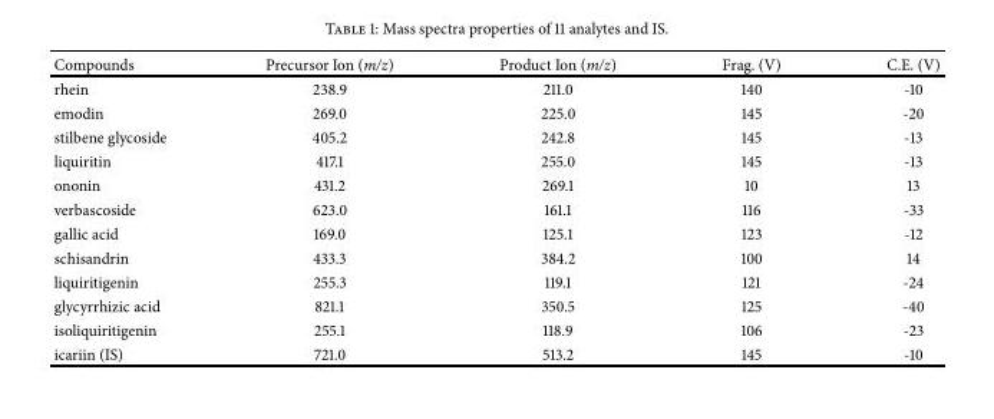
<table><thead><tr><td>Compounds</td><td>Precursor Ion (m/z)</td><td>Product Ion (m/z)</td><td>Frag. (V)</td><td>C.E. (V)</td></tr></thead><tbody><tr><td>rhein</td><td>238.9</td><td>211.0</td><td>140</td><td>-10</td></tr><tr><td>emodin</td><td>269.0</td><td>225.0</td><td>145</td><td>-20</td></tr><tr><td>stilbene glycoside</td><td>405.2</td><td>242.8</td><td>145</td><td>-13</td></tr><tr><td>liquiritin</td><td>417.1</td><td>255.0</td><td>145</td><td>-13</td></tr><tr><td>ononin</td><td>431.2</td><td>269.1</td><td>10</td><td>13</td></tr><tr><td>verbascoside</td><td>623.0</td><td>161.1</td><td>116</td><td>-33</td></tr><tr><td>gallic acid</td><td>169.0</td><td>125.1</td><td>123</td><td>-12</td></tr><tr><td>schisandrin</td><td>433.3</td><td>384.2</td><td>100</td><td>14</td></tr><tr><td>liquiritigenin</td><td>255.3</td><td>119.1</td><td>121</td><td>-24</td></tr><tr><td>glycyrrhizic acid</td><td>821.1</td><td>350.5</td><td>125</td><td>-40</td></tr><tr><td>isoliquiritigenin</td><td>255.1</td><td>118.9</td><td>106</td><td>-23</td></tr><tr><td>icariin (IS)</td><td>721.0</td><td>513.2</td><td>145</td><td>-10</td></tr></tbody></table>